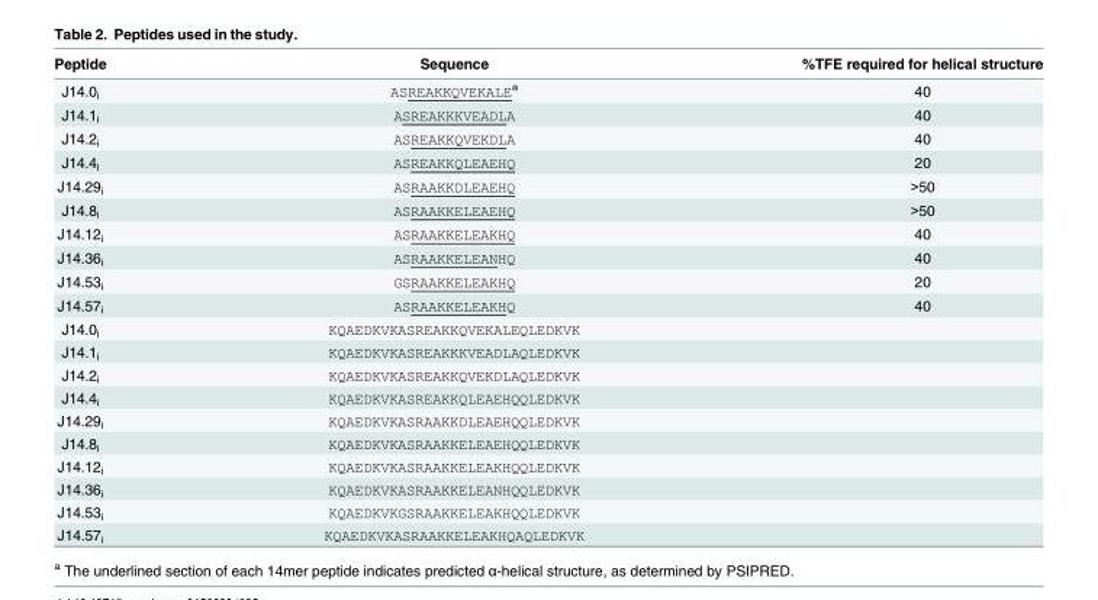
<table><thead><tr><td>Peptide</td><td>Sequence</td><td>%TFE required for helical structure</td></tr></thead><tbody><tr><td>J14.0<sub>i</sub></td><td>ASREAKKQVEKALE<sup>a</sup></td><td>40</td></tr><tr><td>J14.1<sub>i</sub></td><td>ASREAKKKVEADLA</td><td>40</td></tr><tr><td>J14.2<sub>i</sub></td><td>ASREAKKQVEKDLA</td><td>40</td></tr><tr><td>J14.4<sub>i</sub></td><td>ASREAKKQLEAEHQ</td><td>20</td></tr><tr><td>J14.29<sub>i</sub></td><td>ASRAAKKDLEAEHQ</td><td>&gt;50</td></tr><tr><td>J14.8<sub>i</sub></td><td>ASRAAKKELEAEHQ</td><td>&gt;50</td></tr><tr><td>J14.12<sub>i</sub></td><td>ASRAAKKELEAKHQ</td><td>40</td></tr><tr><td>J14.36<sub>i</sub></td><td>ASRAAKKELEANHQ</td><td>40</td></tr><tr><td>J14.53<sub>i</sub></td><td>GSRAAKKELEAKHQ</td><td>20</td></tr><tr><td>J14.57<sub>i</sub></td><td>ASRAAKKELEAKHQ</td><td>40</td></tr><tr><td>J14.0<sub>i</sub></td><td>KQAEDKVKASREAKKQVEKALEQLEDKVK</td><td></td></tr><tr><td>J14.1<sub>i</sub></td><td>KQAEDKVKASREAKKKVEADLAQLEDKVK</td><td></td></tr><tr><td>J14.2<sub>i</sub></td><td>KQAEDKVKASREAKKQVEKDLAQLEDKVK</td><td></td></tr><tr><td>J14.4<sub>i</sub></td><td>KQAEDKVKASREAKKQLEAEHQQLEDKVK</td><td></td></tr><tr><td>J14.29<sub>i</sub></td><td>KQAEDKVKASRAAKKDLEAEHQQLEDKVK</td><td></td></tr><tr><td>J14.8<sub>i</sub></td><td>KQAEDKVKASRAAKKELEAEHQQLEDKVK</td><td></td></tr><tr><td>J14.12<sub>i</sub></td><td>KQAEDKVKASRAAKKELEAKHQQLEDKVK</td><td></td></tr><tr><td>J14.36<sub>i</sub></td><td>KQAEDKVKASRAAKKELEANHQQLEDKVK</td><td></td></tr><tr><td>J14.53<sub>i</sub></td><td>KQAEDKVKGSRAAKKELEAKHQQLEDKVK</td><td></td></tr><tr><td>J14.57<sub>i</sub></td><td>KQAEDKVKASRAAKKELEAKHQAQLEDKVK</td><td></td></tr></tbody></table>